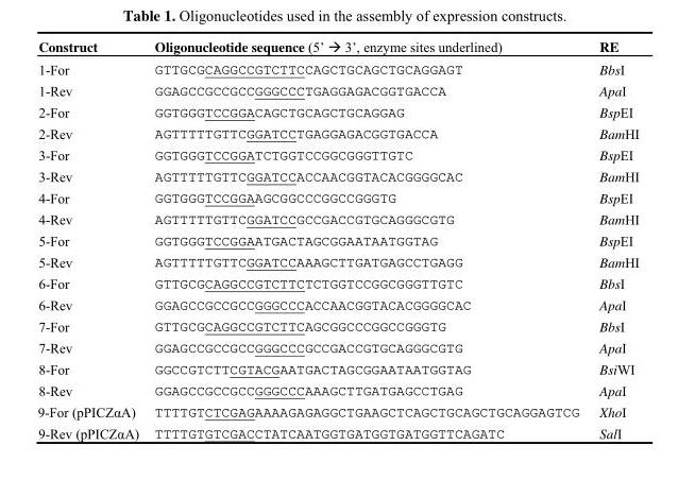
<table><thead><tr><td>Construct</td><td>Oligonucleotide sequence (5’ → 3’, enzyme sites underlined)</td><td>RE</td></tr></thead><tbody><tr><td>1-For</td><td>GTTGCGCAGGCCGTCTTCCAGCTGCAGCTGCAGGAGT</td><td>BbsI</td></tr><tr><td>1-Rev</td><td>GGAGCCGCCGCCGGGCCCTGAGGAGACGGTGACCA</td><td>ApaI</td></tr><tr><td>2-For</td><td>GGTGGGTCCGGACAGCTGCAGCTGCAGGAG</td><td>BspEI</td></tr><tr><td>2-Rev</td><td>AGTTTTTGTTCGGATCCTGAGGAGACGGTGACCA</td><td>BamHI</td></tr><tr><td>3-For</td><td>GGTGGGTCCGGATCTGGTCCGGCGGGTTGTC</td><td>BspEI</td></tr><tr><td>3-Rev</td><td>AGTTTTTGTTCGGATCCACCAACGGTACACGGGGCAC</td><td>BamHI</td></tr><tr><td>4-For</td><td>GGTGGGTCCGGAAGCGGCCCGGCCGGGTG</td><td>BspEI</td></tr><tr><td>4-Rev</td><td>AGTTTTTGTTCGGATCCGCCGACCGTGCAGGGCGTG</td><td>BamHI</td></tr><tr><td>5-For</td><td>GGTGGGTCCGGAATGACTAGCGGAATAATGGTAG</td><td>BspEI</td></tr><tr><td>5-Rev</td><td>AGTTTTTGTTCGGATCCAAAGCTTGATGAGCCTGAGG</td><td>BamHI</td></tr><tr><td>6-For</td><td>GTTGCGCAGGCCGTCTTCTCTGGTCCGGCGGGTTGTC</td><td>BbsI</td></tr><tr><td>6-Rev</td><td>GGAGCCGCCGCCGGGCCCACCAACGGTACACGGGGCAC</td><td>ApaI</td></tr><tr><td>7-For</td><td>GTTGCGCAGGCCGTCTTCAGCGGCCCGGCCGGGTG</td><td>BbsI</td></tr><tr><td>7-Rev</td><td>GGAGCCGCCGCCGGGCCCGCCGACCGTGCAGGGCGTG</td><td>ApaI</td></tr><tr><td>8-For</td><td>GGCCGTCTTCGTACGAATGACTAGCGGAATAATGGTAG</td><td>BsiWI</td></tr><tr><td>8-Rev</td><td>GGAGCCGCCGCCGGGCCCAAAGCTTGATGAGCCTGAG</td><td>ApaI</td></tr><tr><td>9-For (pPICZαA)</td><td>TTTTGTCTCGAGAAAAGAGAGGCTGAAGCTCAGCTGCAGCTGCAGGAGTCG</td><td>XhoI</td></tr><tr><td>9-Rev (pPICZαA)</td><td>TTTTGTGTCGACCTATCAATGGTGATGGTGATGGTTCAGATC</td><td>SalI</td></tr></tbody></table>